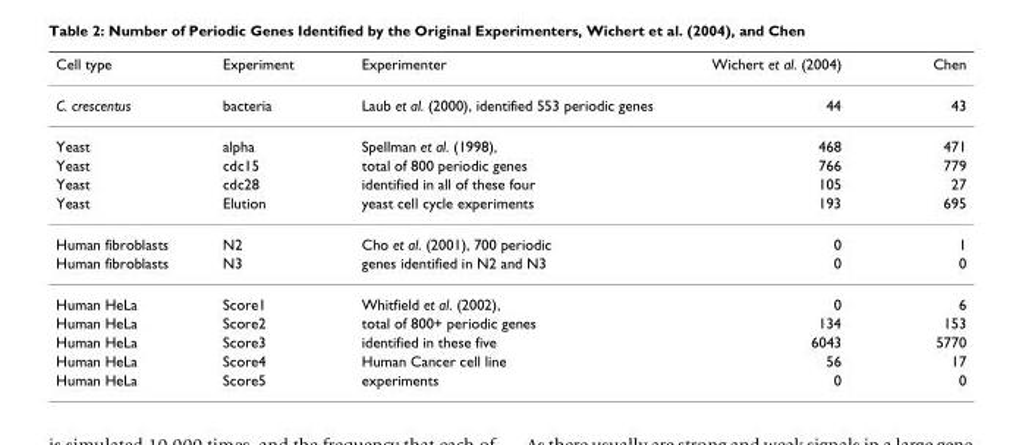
<table><thead><tr><td>Cell type</td><td>Experiment</td><td>Experimenter</td><td>Wichert et al. (2004)</td><td>Chen</td></tr></thead><tbody><tr><td>C. crescentus</td><td>bacteria</td><td>Laub et al. (2000), identified 553 periodic genes</td><td>44</td><td>43</td></tr><tr><td>Yeast</td><td>alpha</td><td>Spellman et al. (1998),</td><td>468</td><td>471</td></tr><tr><td>Yeast</td><td>cdc15</td><td>total of 800 periodic genes</td><td>766</td><td>779</td></tr><tr><td>Yeast</td><td>cdc28</td><td>identified in all of these four</td><td>105</td><td>27</td></tr><tr><td>Yeast</td><td>Elution</td><td>yeast cell cycle experiments</td><td>193</td><td>695</td></tr><tr><td>Human fibroblasts</td><td>N2</td><td>Cho et al. (2001), 700 periodic</td><td>0</td><td>1</td></tr><tr><td>Human fibroblasts</td><td>N3</td><td>genes identified in N2 and N3</td><td>0</td><td>0</td></tr><tr><td>Human HeLa</td><td>Score1</td><td>Whitfield et al. (2002),</td><td>0</td><td>6</td></tr><tr><td>Human HeLa</td><td>Score2</td><td>total of 800+ periodic genes</td><td>134</td><td>153</td></tr><tr><td>Human HeLa</td><td>Score3</td><td>identified in these five</td><td>6043</td><td>5770</td></tr><tr><td>Human HeLa</td><td>Score4</td><td>Human Cancer cell line</td><td>56</td><td>17</td></tr><tr><td>Human HeLa</td><td>Score5</td><td>experiments</td><td>0</td><td>0</td></tr></tbody></table>